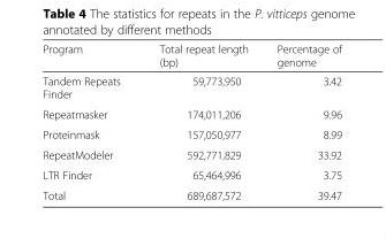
<table><thead><tr><td>Program</td><td>Total repeat length (bp)</td><td>Percentage of genome</td></tr></thead><tbody><tr><td>Tandem Repeats Finder</td><td>59,773,950</td><td>3.42</td></tr><tr><td>Repeatmasker</td><td>174,011,206</td><td>9.96</td></tr><tr><td>Proteinmask</td><td>157,050,977</td><td>8.99</td></tr><tr><td>RepeatModeler</td><td>592,771,829</td><td>33.92</td></tr><tr><td>LTR Finder</td><td>65,464,996</td><td>3.75</td></tr><tr><td>Total</td><td>689,687,572</td><td>39.47</td></tr></tbody></table>